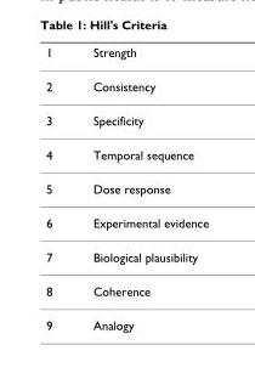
<table><thead><tr><td>1</td><td>Strength</td></tr></thead><tbody><tr><td>2</td><td>Consistency</td></tr><tr><td>3</td><td>Specificity</td></tr><tr><td>4</td><td>Temporal sequence</td></tr><tr><td>5</td><td>Dose response</td></tr><tr><td>6</td><td>Experimental evidence</td></tr><tr><td>7</td><td>Biological plausibility</td></tr><tr><td>8</td><td>Coherence</td></tr><tr><td>9</td><td>Analogy</td></tr></tbody></table>